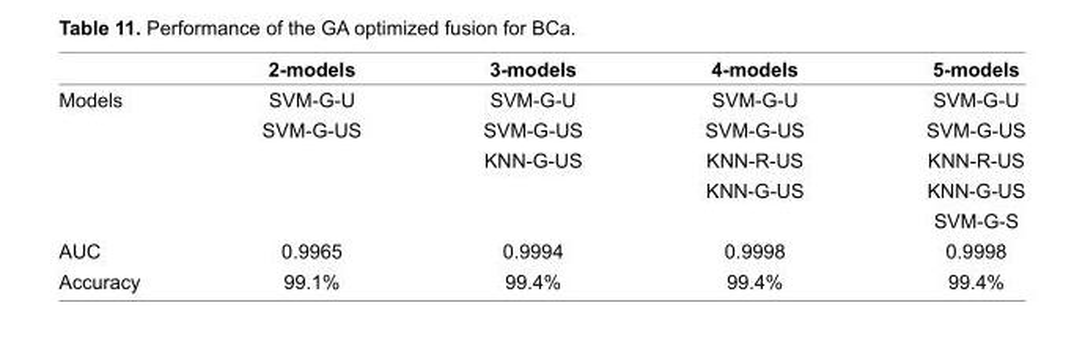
<table><thead><tr><td></td><td>2-models</td><td>3-models</td><td>4-models</td><td>5-models</td></tr></thead><tbody><tr><td rowspan="5">Models</td><td>SVM-G-U</td><td>SVM-G-U</td><td>SVM-G-U</td><td>SVM-G-U</td></tr><tr><td>SVM-G-US</td><td>SVM-G-US</td><td>SVM-G-US</td><td>SVM-G-US</td></tr><tr><td></td><td>KNN-G-US</td><td>KNN-R-US</td><td>KNN-R-US</td></tr><tr><td></td><td></td><td>KNN-G-US</td><td>KNN-G-US</td></tr><tr><td></td><td></td><td></td><td>SVM-G-S</td></tr><tr><td>AUC</td><td>0.9965</td><td>0.9994</td><td>0.9998</td><td>0.9998</td></tr><tr><td>Accuracy</td><td>99.1%</td><td>99.4%</td><td>99.4%</td><td>99.4%</td></tr></tbody></table>